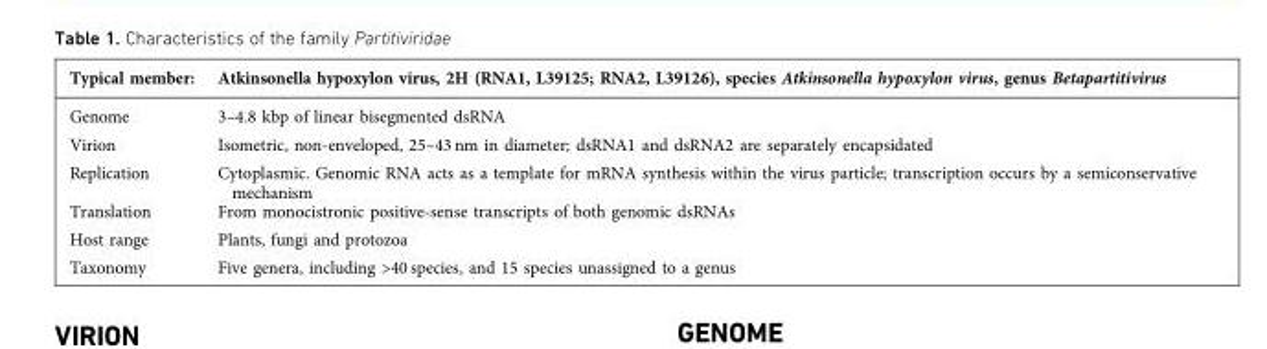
<table><thead><tr><td>Typical member:</td><td>Atkinsonella hypoxylon virus, 2H (RNA1, L39125; RNA2, L39126), species Atkinsonella hypoxylon virus, genus Betapartitivirus</td></tr></thead><tbody><tr><td>Genome</td><td>3–4.8 kbp of linear bisegmented dsRNA</td></tr><tr><td>Virion</td><td>Isometric, non-enveloped, 25–43 nm in diameter; dsRNA1 and dsRNA2 are separately encapsidated</td></tr><tr><td>Replication</td><td>Cytoplasmic. Genomic RNA acts as a template for mRNA synthesis within the virus particle; transcription occurs by a semiconservative mechanism</td></tr><tr><td>Translation</td><td>From monocistronic positive-sense transcripts of both genomic dsRNAs</td></tr><tr><td>Host range</td><td>Plants, fungi and protozoa</td></tr><tr><td>Taxonomy</td><td>Five genera, including &gt;40 species, and 15 species unassigned to a genus</td></tr></tbody></table>